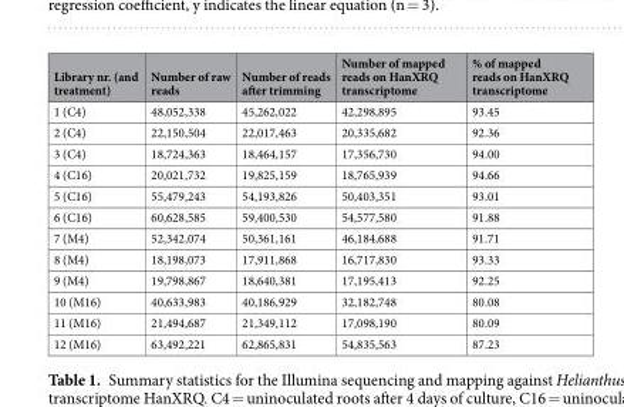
<table><thead><tr><td>Library nr. (and treatment)</td><td>Number of raw reads</td><td>Number of reads after trimming</td><td>Number of mapped reads on HanXRQ transcriptome</td><td>% of mapped reads on HanXRQ transcriptome</td></tr></thead><tbody><tr><td>1 (C4)</td><td>48,052,338</td><td>45,262,022</td><td>42,298,895</td><td>93.45</td></tr><tr><td>2 (C4)</td><td>22,150,504</td><td>22,017,463</td><td>20,335,682</td><td>92.36</td></tr><tr><td>3 (C4)</td><td>18,724,363</td><td>18,464,157</td><td>17,356,730</td><td>94.00</td></tr><tr><td>4 (C16)</td><td>20,021,732</td><td>19,825,159</td><td>18,765,939</td><td>94.66</td></tr><tr><td>5 (C16)</td><td>55,479,243</td><td>54,193,826</td><td>50,403,351</td><td>93.01</td></tr><tr><td>6 (C16)</td><td>60,628,585</td><td>59,400,530</td><td>54,577,580</td><td>91.88</td></tr><tr><td>7 (M4)</td><td>52,342,074</td><td>50,361,161</td><td>46,184,688</td><td>91.71</td></tr><tr><td>8 (M4)</td><td>18,198,073</td><td>17,911,868</td><td>16,717,830</td><td>93.33</td></tr><tr><td>9 (M4)</td><td>19,798,867</td><td>18,640,381</td><td>17,195,413</td><td>92.25</td></tr><tr><td>10 (M16)</td><td>40,633,983</td><td>40,186,929</td><td>32,182,748</td><td>80.08</td></tr><tr><td>11 (M16)</td><td>21,494,687</td><td>21,349,112</td><td>17,098,190</td><td>80.09</td></tr><tr><td>12 (M16)</td><td>63,492,221</td><td>62,865,831</td><td>54,835,563</td><td>87.23</td></tr></tbody></table>